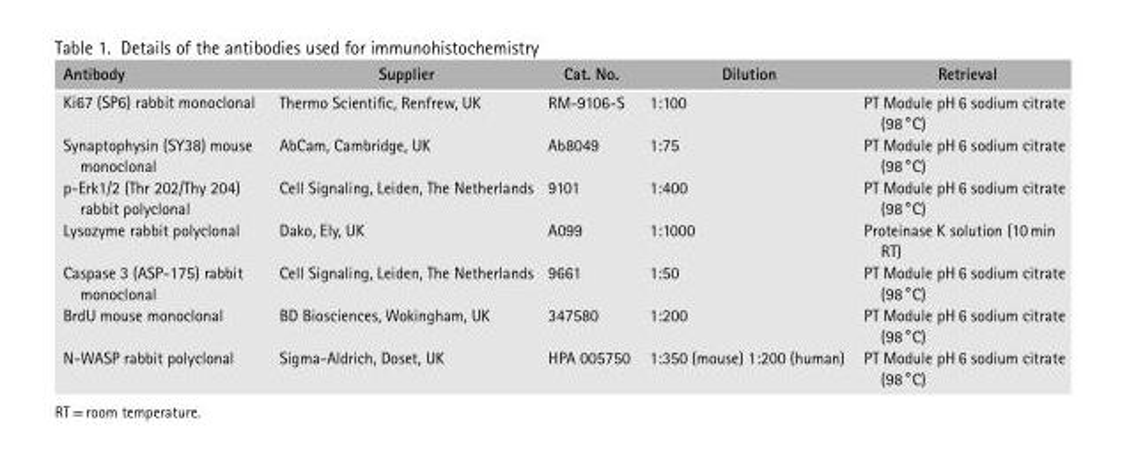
<table><thead><tr><td>Antibody</td><td>Supplier</td><td>Cat. No.</td><td>Dilution</td><td>Retrieval</td></tr></thead><tbody><tr><td>Ki67 (SP6) rabbit monoclonal</td><td>Thermo Scientific, Renfrew, UK</td><td>RM-9106-S</td><td>1:100</td><td>PT Module pH 6 sodium citrate (98 ∘C)</td></tr><tr><td>Synaptophysin (SY38) mouse monoclonal</td><td>AbCam, Cambridge, UK</td><td>Ab8049</td><td>1:75</td><td>PT Module pH 6 sodium citrate (98 ∘C)</td></tr><tr><td>p-Erk1/2 (Thr 202/Thy 204) rabbit polyclonal</td><td>Cell Signaling, Leiden, The Netherlands</td><td>9101</td><td>1:400</td><td>PT Module pH 6 sodium citrate (98 ∘C)</td></tr><tr><td>Lysozyme rabbit polyclonal</td><td>Dako, Ely, UK</td><td>A099</td><td>1:1000</td><td>Proteinase K solution (10 min RT)</td></tr><tr><td>Caspase 3 (ASP-175) rabbit monoclonal</td><td>Cell Signaling, Leiden, The Netherlands</td><td>9661</td><td>1:50</td><td>PT Module pH 6 sodium citrate (98 ∘C)</td></tr><tr><td>BrdU mouse monoclonal</td><td>BD Biosciences, Wokingham, UK</td><td>347580</td><td>1:200</td><td>PT Module pH 6 sodium citrate (98 ∘C)</td></tr><tr><td>N-WASP rabbit polyclonal</td><td>Sigma-Aldrich, Doset, UK</td><td>HPA 005750</td><td>1:350 (mouse) 1:200 (human)</td><td>PT Module pH 6 sodium citrate (98 ∘C)</td></tr></tbody></table>